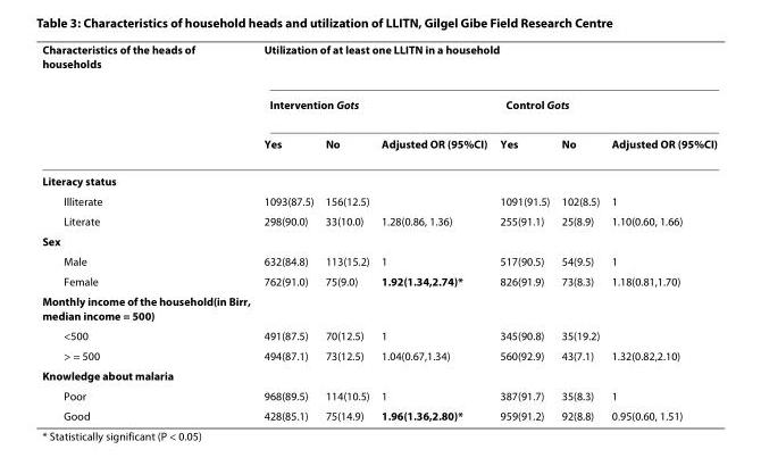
<table><thead><tr><td rowspan="3">Characteristics of the heads of households</td><td colspan="6">Utilization of at least one LLITN in a household</td></tr><tr><td colspan="3">Intervention Gots</td><td colspan="3">Control Gots</td></tr><tr><td>Yes</td><td>No</td><td>Adjusted OR (95%CI)</td><td>Yes</td><td>No</td><td>Adjusted OR (95%CI)</td></tr></thead><tbody><tr><td colspan="7">Literacy status</td></tr><tr><td>Illiterate</td><td>1093(87.5)</td><td>156(12.5)</td><td></td><td>1091(91.5)</td><td>102(8.5)</td><td>1</td></tr><tr><td>Literate</td><td>298(90.0)</td><td>33(10.0)</td><td>1.28(0.86, 1.36)</td><td>255(91.1)</td><td>25(8.9)</td><td>1.10(0.60, 1.66)</td></tr><tr><td colspan="7">Sex</td></tr><tr><td>Male</td><td>632(84.8)</td><td>113(15.2)</td><td>1</td><td>517(90.5)</td><td>54(9.5)</td><td>1</td></tr><tr><td>Female</td><td>762(91.0)</td><td>75(9.0)</td><td>1.92(1.34,2.74)*</td><td>826(91.9)</td><td>73(8.3)</td><td>1.18(0.81,1.70)</td></tr><tr><td colspan="7">Monthly income of the household(in Birr, median income = 500)</td></tr><tr><td>&lt;500</td><td>491(87.5)</td><td>70(12.5)</td><td>1</td><td>345(90.8)</td><td>35(19.2)</td><td></td></tr><tr><td>&gt; = 500</td><td>494(87.1)</td><td>73(12.5)</td><td>1.04(0.67,1.34)</td><td>560(92.9)</td><td>43(7.1)</td><td>1.32(0.82,2.10)</td></tr><tr><td colspan="7">Knowledge about malaria</td></tr><tr><td>Poor</td><td>968(89.5)</td><td>114(10.5)</td><td>1</td><td>387(91.7)</td><td>35(8.3)</td><td>1</td></tr><tr><td>Good</td><td>428(85.1)</td><td>75(14.9)</td><td>1.96(1.36,2.80)*</td><td>959(91.2)</td><td>92(8.8)</td><td>0.95(0.60, 1.51)</td></tr></tbody></table>